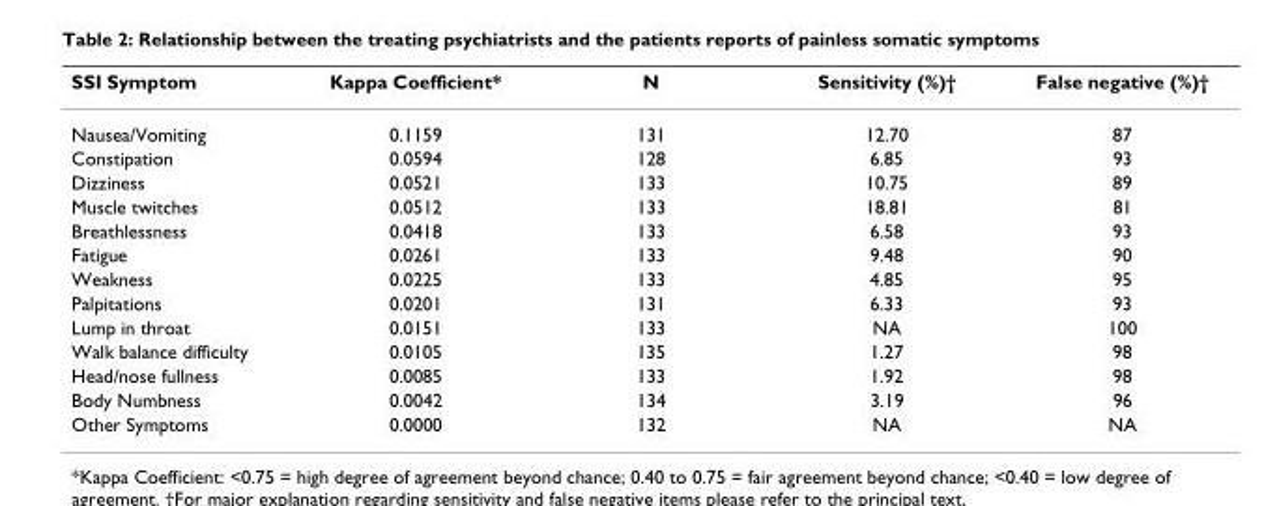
<table><thead><tr><td>SSI Symptom</td><td>Kappa Coefficient*</td><td>N</td><td>Sensitivity (%)†</td><td>False negative (%)†</td></tr></thead><tbody><tr><td>Nausea/Vomiting</td><td>0.1159</td><td>131</td><td>12.70</td><td>87</td></tr><tr><td>Constipation</td><td>0.0594</td><td>128</td><td>6.85</td><td>93</td></tr><tr><td>Dizziness</td><td>0.0521</td><td>133</td><td>10.75</td><td>89</td></tr><tr><td>Muscle twitches</td><td>0.0512</td><td>133</td><td>18.81</td><td>81</td></tr><tr><td>Breathlessness</td><td>0.0418</td><td>133</td><td>6.58</td><td>93</td></tr><tr><td>Fatigue</td><td>0.0261</td><td>133</td><td>9.48</td><td>90</td></tr><tr><td>Weakness</td><td>0.0225</td><td>133</td><td>4.85</td><td>95</td></tr><tr><td>Palpitations</td><td>0.0201</td><td>131</td><td>6.33</td><td>93</td></tr><tr><td>Lump in throat</td><td>0.0151</td><td>133</td><td>NA</td><td>100</td></tr><tr><td>Walk balance difficulty</td><td>0.0105</td><td>135</td><td>1.27</td><td>98</td></tr><tr><td>Head/nose fullness</td><td>0.0085</td><td>133</td><td>1.92</td><td>98</td></tr><tr><td>Body Numbness</td><td>0.0042</td><td>134</td><td>3.19</td><td>96</td></tr><tr><td>Other Symptoms</td><td>0.0000</td><td>132</td><td>NA</td><td>NA</td></tr></tbody></table>